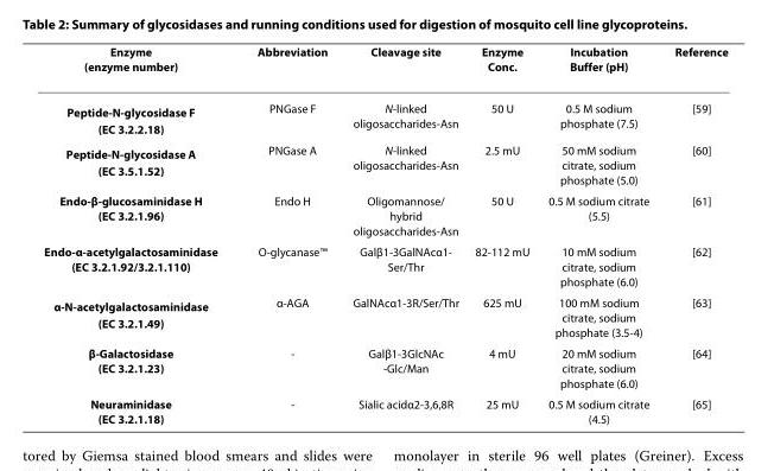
<table><thead><tr><td>Enzyme (enzyme number)</td><td>Abbreviation</td><td>Cleavage site</td><td>Enzyme Conc.</td><td>Incubation Buffer (pH)</td><td>Reference</td></tr></thead><tbody><tr><td>Peptide-N-glycosidase F (EC 3.2.2.18)</td><td>PNGase F</td><td>N-linked oligosaccharides-Asn</td><td>50 U</td><td>0.5 M sodium phosphate (7.5)</td><td>[59]</td></tr><tr><td>Peptide-N-glycosidase A (EC 3.5.1.52)</td><td>PNGase A</td><td>N-linked oligosaccharides-Asn</td><td>2.5 mU</td><td>50 mM sodium citrate, sodium phosphate (5.0)</td><td>[60]</td></tr><tr><td>Endo-β-glucosaminidase H (EC 3.2.1.96)</td><td>Endo H</td><td>Oligomannose/ hybrid oligosaccharides-Asn</td><td>50 U</td><td>0.5 M sodium citrate (5.5)</td><td>[61]</td></tr><tr><td>Endo-α-acetylgalactosaminidase (EC 3.2.1.92/3.2.1.110)</td><td>O-glycanase™</td><td>Galβ1-3GalNAcα1- Ser/Thr</td><td>82-112 mU</td><td>10 mM sodium citrate, sodium phosphate (6.0)</td><td>[62]</td></tr><tr><td>α-N-acetylgalactosaminidase (EC 3.2.1.49)</td><td>α-AGA</td><td>GalNAcα1-3R/Ser/Thr</td><td>625 mU</td><td>100 mM sodium citrate, sodium phosphate (3.5-4)</td><td>[63]</td></tr><tr><td>β-Galactosidase (EC 3.2.1.23)</td><td>-</td><td>Galβ1-3GlcNAc -Glc/Man</td><td>4 mU</td><td>20 mM sodium citrate, sodium phosphate (6.0)</td><td>[64]</td></tr><tr><td>Neuraminidase (EC 3.2.1.18)</td><td>-</td><td>Sialic acidα2-3,6,8R</td><td>25 mU</td><td>0.5 M sodium citrate (4.5)</td><td>[65]</td></tr></tbody></table>